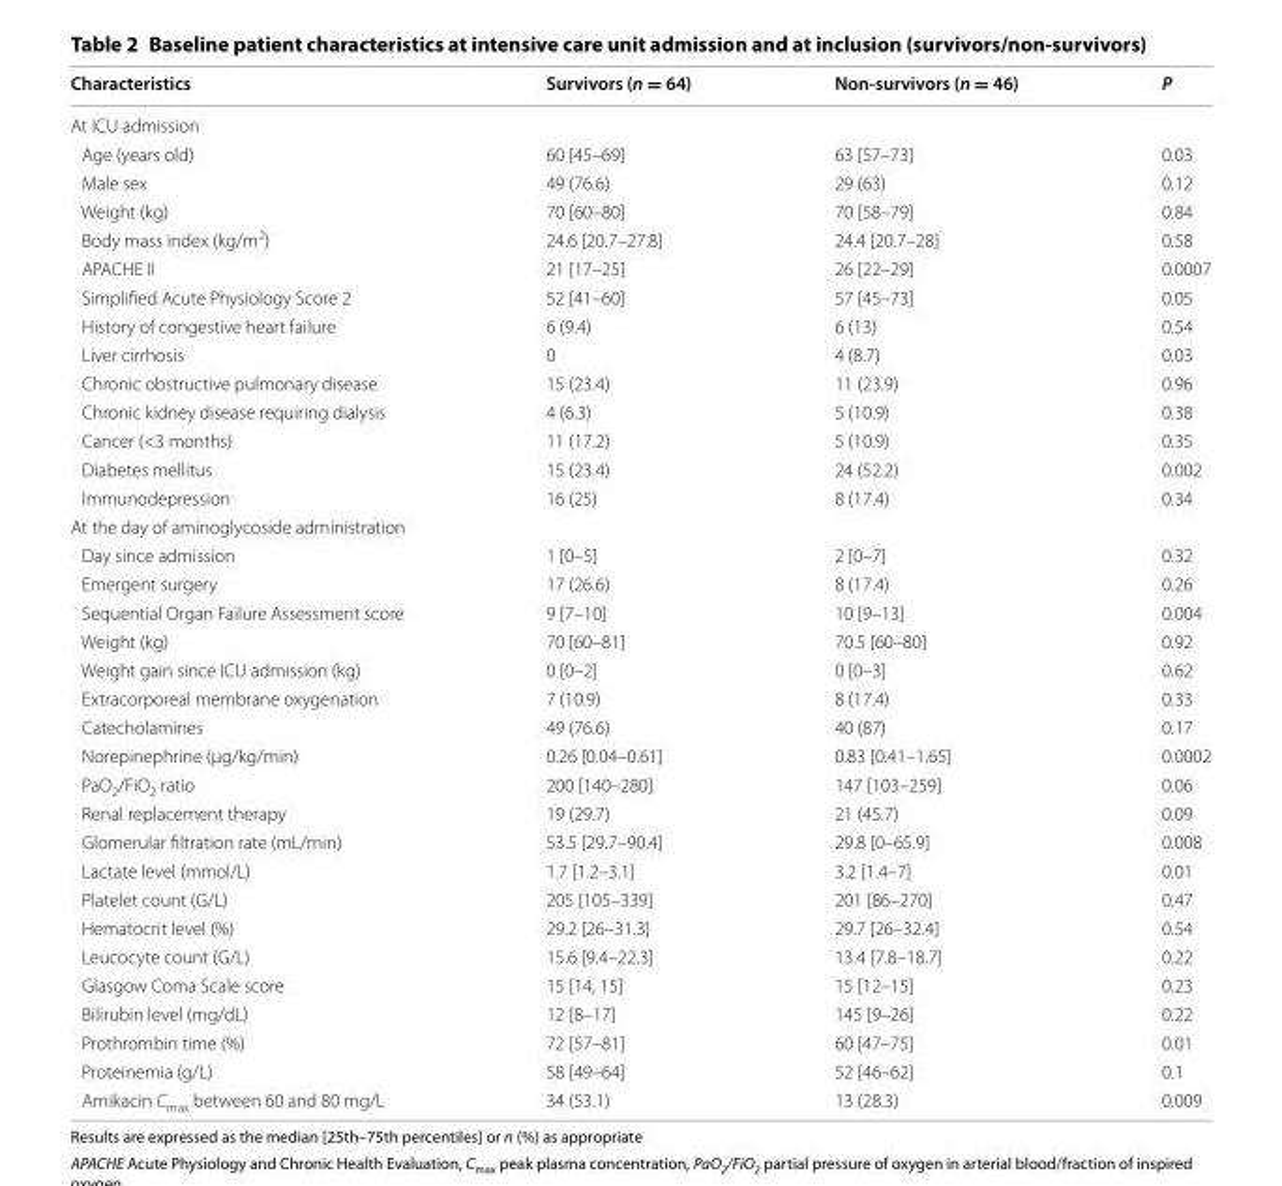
<table><thead><tr><td>Characteristics</td><td>Survivors (n = 64)</td><td>Non-survivors (n = 46)</td><td>P</td></tr></thead><tbody><tr><td colspan="4">At ICU admission</td></tr><tr><td>Age (years old)</td><td>60 [45–69]</td><td>63 [57–73]</td><td>0.03</td></tr><tr><td>Male sex</td><td>49 (76.6)</td><td>29 (63)</td><td>0.12</td></tr><tr><td>Weight (kg)</td><td>70 [60–80]</td><td>70 [58–79]</td><td>0.84</td></tr><tr><td>Body mass index (kg/m<sup>2</sup>)</td><td>24.6 [20.7–27.8]</td><td>24.4 [20.7–28]</td><td>0.58</td></tr><tr><td>APACHE II</td><td>21 [17–25]</td><td>26 [22–29]</td><td>0.0007</td></tr><tr><td>Simplified Acute Physiology Score 2</td><td>52 [41–60]</td><td>57 [45–73]</td><td>0.05</td></tr><tr><td>History of congestive heart failure</td><td>6 (9.4)</td><td>6 (13)</td><td>0.54</td></tr><tr><td>Liver cirrhosis</td><td>0</td><td>4 (8.7)</td><td>0.03</td></tr><tr><td>Chronic obstructive pulmonary disease</td><td>15 (23.4)</td><td>11 (23.9)</td><td>0.96</td></tr><tr><td>Chronic kidney disease requiring dialysis</td><td>4 (6.3)</td><td>5 (10.9)</td><td>0.38</td></tr><tr><td>Cancer (&lt;3 months)</td><td>11 (17.2)</td><td>5 (10.9)</td><td>0.35</td></tr><tr><td>Diabetes mellitus</td><td>15 (23.4)</td><td>24 (52.2)</td><td>0.002</td></tr><tr><td>Immunodepression</td><td>16 (25)</td><td>8 (17.4)</td><td>0.34</td></tr><tr><td colspan="4">At the day of aminoglycoside administration</td></tr><tr><td>Day since admission</td><td>1 [0–5]</td><td>2 [0–7]</td><td>0.32</td></tr><tr><td>Emergent surgery</td><td>17 (26.6)</td><td>8 (17.4)</td><td>0.26</td></tr><tr><td>Sequential Organ Failure Assessment score</td><td>9 [7–10]</td><td>10 [9–13]</td><td>0.004</td></tr><tr><td>Weight (kg)</td><td>70 [60–81]</td><td>70.5 [60–80]</td><td>0.92</td></tr><tr><td>Weight gain since ICU admission (kg)</td><td>0 [0–2]</td><td>0 [0–3]</td><td>0.62</td></tr><tr><td>Extracorporeal membrane oxygenation</td><td>7 (10.9)</td><td>8 (17.4)</td><td>0.33</td></tr><tr><td>Catecholamines</td><td>49 (76.6)</td><td>40 (87)</td><td>0.17</td></tr><tr><td>Norepinephrine (µg/kg/min)</td><td>0.26 [0.04–0.61]</td><td>0.83 [0.41–1.65]</td><td>0.0002</td></tr><tr><td>PaO<sub>2</sub>/FiO<sub>2</sub> ratio</td><td>200 [140–280]</td><td>147 [103–259]</td><td>0.06</td></tr><tr><td>Renal replacement therapy</td><td>19 (29.7)</td><td>21 (45.7)</td><td>0.09</td></tr><tr><td>Glomerular filtration rate (mL/min)</td><td>53.5 [29.7–90.4]</td><td>29.8 [0–65.9]</td><td>0.008</td></tr><tr><td>Lactate level (mmol/L)</td><td>1.7 [1.2–3.1]</td><td>3.2 [1.4–7]</td><td>0.01</td></tr><tr><td>Platelet count (G/L)</td><td>205 [105–339]</td><td>201 [86–270]</td><td>0.47</td></tr><tr><td>Hematocrit level (%)</td><td>29.2 [26–31.3]</td><td>29.7 [26–32.4]</td><td>0.54</td></tr><tr><td>Leucocyte count (G/L)</td><td>15.6 [9.4–22.3]</td><td>13.4 [7.8–18.7]</td><td>0.22</td></tr><tr><td>Glasgow Coma Scale score</td><td>15 [14, 15]</td><td>15 [12–15]</td><td>0.23</td></tr><tr><td>Bilirubin level (mg/dL)</td><td>12 [8–17]</td><td>145 [9–26]</td><td>0.22</td></tr><tr><td>Prothrombin time (%)</td><td>72 [57–81]</td><td>60 [47–75]</td><td>0.01</td></tr><tr><td>Proteinemia (g/L)</td><td>58 [49–64]</td><td>52 [46–62]</td><td>0.1</td></tr><tr><td>Amikacin C<sub>max</sub> between 60 and 80 mg/L</td><td>34 (53.1)</td><td>13 (28.3)</td><td>0.009</td></tr></tbody></table>